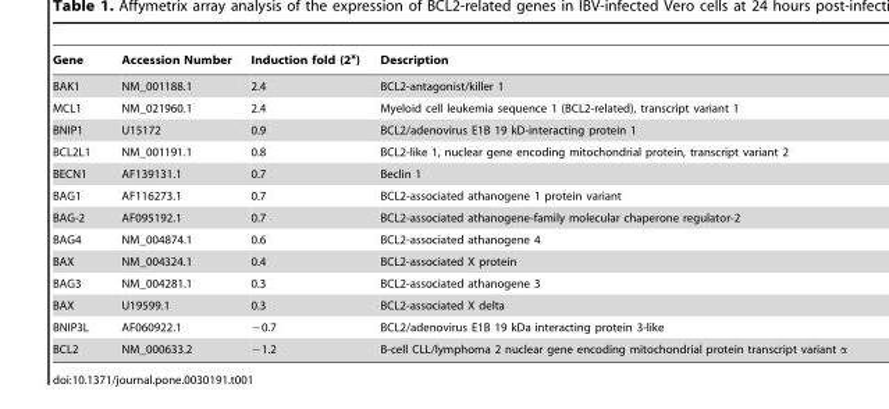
<table><thead><tr><td>Gene</td><td>Accession Number</td><td>Induction fold (2<sup>x</sup>)</td><td>Description</td></tr></thead><tbody><tr><td>BAK1</td><td>NM_001188.1</td><td>2.4</td><td>BCL2-antagonist/killer 1</td></tr><tr><td>MCL1</td><td>NM_021960.1</td><td>2.4</td><td>Myeloid cell leukemia sequence 1 (BCL2-related), transcript variant 1</td></tr><tr><td>BNIP1</td><td>U15172</td><td>0.9</td><td>BCL2/adenovirus E1B 19 kD-interacting protein 1</td></tr><tr><td>BCL2L1</td><td>NM_001191.1</td><td>0.8</td><td>BCL2-like 1, nuclear gene encoding mitochondrial protein, transcript variant 2</td></tr><tr><td>BECN1</td><td>AF139131.1</td><td>0.7</td><td>Beclin 1</td></tr><tr><td>BAG1</td><td>AF116273.1</td><td>0.7</td><td>BCL2-associated athanogene 1 protein variant</td></tr><tr><td>BAG-2</td><td>AF095192.1</td><td>0.7</td><td>BCL2-associated athanogene-family molecular chaperone regulator-2</td></tr><tr><td>BAG4</td><td>NM_004874.1</td><td>0.6</td><td>BCL2-associated athanogene 4</td></tr><tr><td>BAX</td><td>NM_004324.1</td><td>0.4</td><td>BCL2-associated X protein</td></tr><tr><td>BAG3</td><td>NM_004281.1</td><td>0.3</td><td>BCL2-associated athanogene 3</td></tr><tr><td>BAX</td><td>U19599.1</td><td>0.3</td><td>BCL2-associated X delta</td></tr><tr><td>BNIP3L</td><td>AF060922.1</td><td>−0.7</td><td>BCL2/adenovirus E1B 19 kDa interacting protein 3-like</td></tr><tr><td>BCL2</td><td>NM_000633.2</td><td>−1.2</td><td>B-cell CLL/lymphoma 2 nuclear gene encoding mitochondrial protein transcript variant</td></tr></tbody></table>